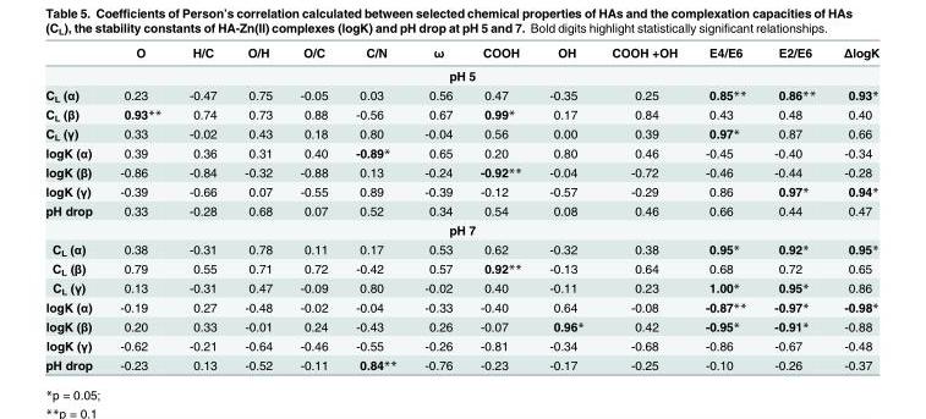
<table><thead><tr><td></td><td>O</td><td>H/C</td><td>O/H</td><td>O/C</td><td>C/N</td><td>ω</td><td>COOH</td><td>OH</td><td>COOH +OH</td><td>E4/E6</td><td>E2/E6</td><td>ΔlogK</td></tr></thead><tbody><tr><td colspan="13">pH 5</td></tr><tr><td>C<sub>L</sub> (α)</td><td>0.23</td><td>-0.47</td><td>0.75</td><td>-0.05</td><td>0.03</td><td>0.56</td><td>0.47</td><td>-0.35</td><td>0.25</td><td>0.85**</td><td>0.86**</td><td>0.93*</td></tr><tr><td>C<sub>L</sub> (β)</td><td>0.93**</td><td>0.74</td><td>0.73</td><td>0.88</td><td>-0.56</td><td>0.67</td><td>0.99*</td><td>0.17</td><td>0.84</td><td>0.43</td><td>0.48</td><td>0.40</td></tr><tr><td>C<sub>L</sub> (γ)</td><td>0.33</td><td>-0.02</td><td>0.43</td><td>0.18</td><td>0.80</td><td>-0.04</td><td>0.56</td><td>0.00</td><td>0.39</td><td>0.97*</td><td>0.87</td><td>0.66</td></tr><tr><td>logK (α)</td><td>0.39</td><td>0.36</td><td>0.31</td><td>0.40</td><td>-0.89*</td><td>0.65</td><td>0.20</td><td>0.80</td><td>0.46</td><td>-0.45</td><td>-0.40</td><td>-0.34</td></tr><tr><td>logK (β)</td><td>-0.86</td><td>-0.84</td><td>-0.32</td><td>-0.88</td><td>0.13</td><td>-0.24</td><td>-0.92**</td><td>-0.04</td><td>-0.72</td><td>-0.46</td><td>-0.44</td><td>-0.28</td></tr><tr><td>logK (γ)</td><td>-0.39</td><td>-0.66</td><td>0.07</td><td>-0.55</td><td>0.89</td><td>-0.39</td><td>-0.12</td><td>-0.57</td><td>-0.29</td><td>0.86</td><td>0.97*</td><td>0.94*</td></tr><tr><td>pH drop</td><td>0.33</td><td>-0.28</td><td>0.68</td><td>0.07</td><td>0.52</td><td>0.34</td><td>0.54</td><td>0.08</td><td>0.46</td><td>0.66</td><td>0.44</td><td>0.47</td></tr><tr><td colspan="13">pH 7</td></tr><tr><td>C<sub>L</sub> (α)</td><td>0.38</td><td>-0.31</td><td>0.78</td><td>0.11</td><td>0.17</td><td>0.53</td><td>0.62</td><td>-0.32</td><td>0.38</td><td>0.95*</td><td>0.92*</td><td>0.95*</td></tr><tr><td>C<sub>L</sub> (β)</td><td>0.79</td><td>0.55</td><td>0.71</td><td>0.72</td><td>-0.42</td><td>0.57</td><td>0.92**</td><td>-0.13</td><td>0.64</td><td>0.68</td><td>0.72</td><td>0.65</td></tr><tr><td>C<sub>L</sub> (γ)</td><td>0.13</td><td>-0.31</td><td>0.47</td><td>-0.09</td><td>0.80</td><td>-0.02</td><td>0.40</td><td>-0.11</td><td>0.23</td><td>1.00*</td><td>0.95*</td><td>0.86</td></tr><tr><td>logK (α)</td><td>-0.19</td><td>0.27</td><td>-0.48</td><td>-0.02</td><td>-0.04</td><td>-0.33</td><td>-0.40</td><td>0.64</td><td>-0.08</td><td>-0.87**</td><td>-0.97*</td><td>-0.98*</td></tr><tr><td>logK (β)</td><td>0.20</td><td>0.33</td><td>-0.01</td><td>0.24</td><td>-0.43</td><td>0.26</td><td>-0.07</td><td>0.96*</td><td>0.42</td><td>-0.95*</td><td>-0.91*</td><td>-0.88</td></tr><tr><td>logK (γ)</td><td>-0.62</td><td>-0.21</td><td>-0.64</td><td>-0.46</td><td>-0.55</td><td>-0.26</td><td>-0.81</td><td>-0.34</td><td>-0.68</td><td>-0.86</td><td>-0.67</td><td>-0.48</td></tr><tr><td>pH drop</td><td>-0.23</td><td>0.13</td><td>-0.52</td><td>-0.11</td><td>0.84**</td><td>-0.76</td><td>-0.23</td><td>-0.17</td><td>-0.25</td><td>-0.10</td><td>-0.26</td><td>-0.37</td></tr></tbody></table>